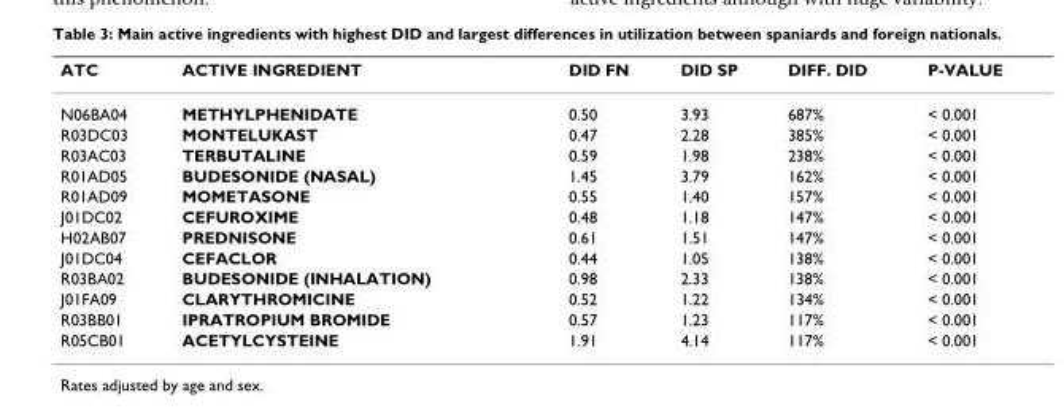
<table><thead><tr><td>ATC</td><td>ACTIVE INGREDIENT</td><td>DID FN</td><td>DID SP</td><td>DIFF. DID</td><td>P-VALUE</td></tr></thead><tbody><tr><td>N06BA04</td><td>METHYLPHENIDATE</td><td>0.50</td><td>3.93</td><td>687%</td><td>&lt; 0.001</td></tr><tr><td>R03DC03</td><td>MONTELUKAST</td><td>0.47</td><td>2.28</td><td>385%</td><td>&lt; 0.001</td></tr><tr><td>R03AC03</td><td>TERBUTALINE</td><td>0.59</td><td>1.98</td><td>238%</td><td>&lt; 0.001</td></tr><tr><td>R01AD05</td><td>BUDESONIDE (NASAL)</td><td>1.45</td><td>3.79</td><td>162%</td><td>&lt; 0.001</td></tr><tr><td>R01AD09</td><td>MOMETASONE</td><td>0.55</td><td>1.40</td><td>157%</td><td>&lt; 0.001</td></tr><tr><td>J01DC02</td><td>CEFUROXIME</td><td>0.48</td><td>1.18</td><td>147%</td><td>&lt; 0.001</td></tr><tr><td>H02AB07</td><td>PREDNISONE</td><td>0.61</td><td>1.51</td><td>147%</td><td>&lt; 0.001</td></tr><tr><td>J01DC04</td><td>CEFACLOR</td><td>0.44</td><td>1.05</td><td>138%</td><td>&lt; 0.001</td></tr><tr><td>R03BA02</td><td>BUDESONIDE (INHALATION)</td><td>0.98</td><td>2.33</td><td>138%</td><td>&lt; 0.001</td></tr><tr><td>J01FA09</td><td>CLARYTHROMICINE</td><td>0.52</td><td>1.22</td><td>134%</td><td>&lt; 0.001</td></tr><tr><td>R03BB01</td><td>IPRATROPIUM BROMIDE</td><td>0.57</td><td>1.23</td><td>117%</td><td>&lt; 0.001</td></tr><tr><td>R05CB01</td><td>ACETYLCYSTEINE</td><td>1.91</td><td>4.14</td><td>117%</td><td>&lt; 0.001</td></tr></tbody></table>